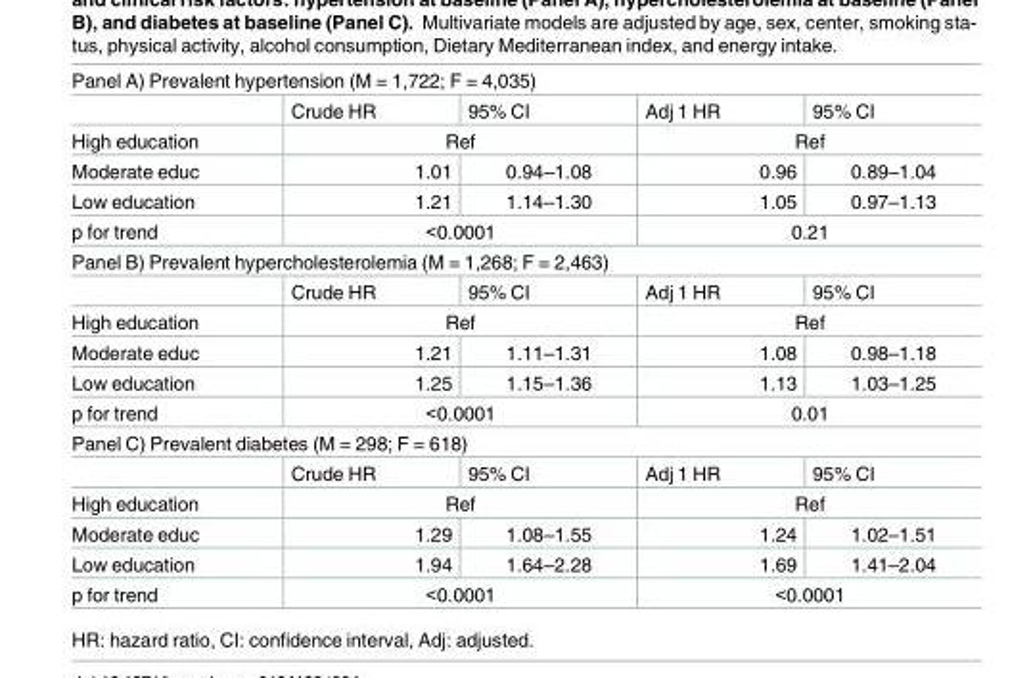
<table><tbody><tr><td colspan="5">Panel A) Prevalent hypertension (M = 1,722; F = 4,035)</td></tr><tr><td></td><td>Crude HR</td><td>95% CI</td><td>Adj 1 HR</td><td>95% CI</td></tr><tr><td>High education</td><td colspan="2">Ref</td><td colspan="2">Ref</td></tr><tr><td>Moderate educ</td><td>1.01</td><td>0.94–1.08</td><td>0.96</td><td>0.89–1.04</td></tr><tr><td>Low education</td><td>1.21</td><td>1.14–1.30</td><td>1.05</td><td>0.97–1.13</td></tr><tr><td>p for trend</td><td colspan="2">&lt;0.0001</td><td colspan="2">0.21</td></tr><tr><td colspan="5">Panel B) Prevalent hypercholesterolemia (M = 1,268; F = 2,463)</td></tr><tr><td></td><td>Crude HR</td><td>95% CI</td><td>Adj 1 HR</td><td>95% CI</td></tr><tr><td>High education</td><td colspan="2">Ref</td><td colspan="2">Ref</td></tr><tr><td>Moderate educ</td><td>1.21</td><td>1.11–1.31</td><td>1.08</td><td>0.98–1.18</td></tr><tr><td>Low education</td><td>1.25</td><td>1.15–1.36</td><td>1.13</td><td>1.03–1.25</td></tr><tr><td>p for trend</td><td colspan="2">&lt;0.0001</td><td colspan="2">0.01</td></tr><tr><td colspan="5">Panel C) Prevalent diabetes (M = 298; F = 618)</td></tr><tr><td></td><td>Crude HR</td><td>95% CI</td><td>Adj 1 HR</td><td>95% CI</td></tr><tr><td>High education</td><td colspan="2">Ref</td><td colspan="2">Ref</td></tr><tr><td>Moderate educ</td><td>1.29</td><td>1.08–1.55</td><td>1.24</td><td>1.02–1.51</td></tr><tr><td>Low education</td><td>1.94</td><td>1.64–2.28</td><td>1.69</td><td>1.41–2.04</td></tr><tr><td>p for trend</td><td colspan="2">&lt;0.0001</td><td colspan="2">&lt;0.0001</td></tr></tbody></table>